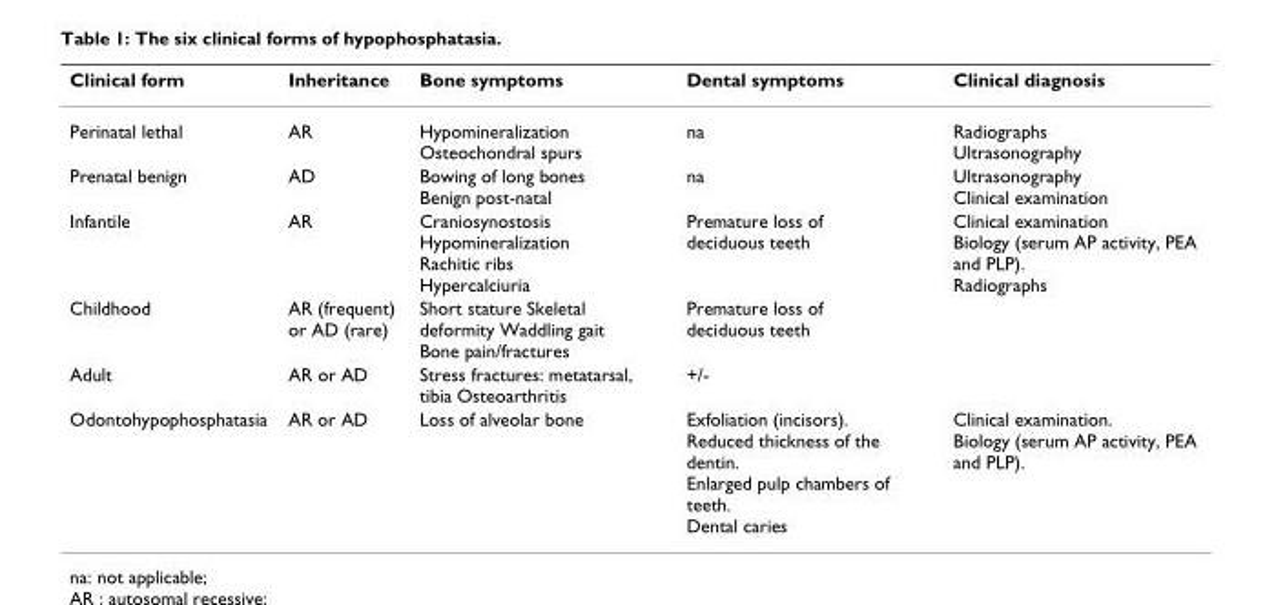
<table><thead><tr><td>Clinical form</td><td>Inheritance</td><td>Bone symptoms</td><td>Dental symptoms</td><td>Clinical diagnosis</td></tr></thead><tbody><tr><td>Perinatal lethal</td><td>AR</td><td>Hypomineralization Osteochondral spurs</td><td>na</td><td>Radiographs Ultrasonography</td></tr><tr><td>Prenatal benign</td><td>AD</td><td>Bowing of long bones Benign post-natal</td><td>na</td><td>Ultrasonography Clinical examination</td></tr><tr><td>Infantile</td><td>AR</td><td>Craniosynostosis Hypomineralization Rachitic ribs Hypercalciuria</td><td>Premature loss of deciduous teeth</td><td>Clinical examination Biology (serum AP activity, PEA and PLP). Radiographs</td></tr><tr><td>Childhood</td><td>AR (frequent) or AD (rare)</td><td>Short stature Skeletal deformity Waddling gait Bone pain/fractures</td><td>Premature loss of deciduous teeth</td><td></td></tr><tr><td>Adult</td><td>AR or AD</td><td>Stress fractures: metatarsal, tibia Osteoarthritis</td><td>+/-</td><td></td></tr><tr><td>Odontohypophosphatasia</td><td>AR or AD</td><td>Loss of alveolar bone</td><td>Exfoliation (incisors). Reduced thickness of the dentin. Enlarged pulp chambers of teeth. Dental caries</td><td>Clinical examination. Biology (serum AP activity, PEA and PLP).</td></tr></tbody></table>